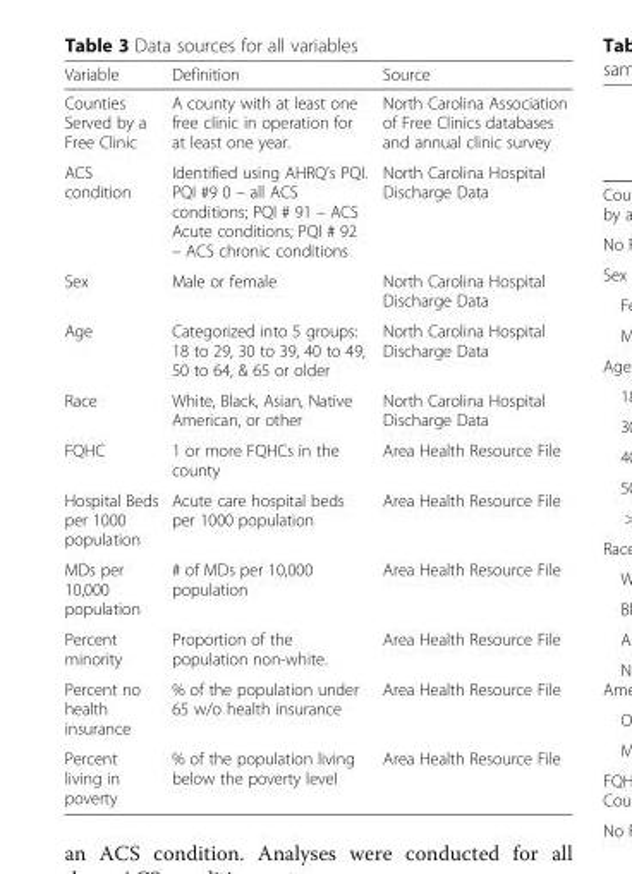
<table><thead><tr><td>Variable</td><td>Definition</td><td>Source</td></tr></thead><tbody><tr><td>Counties Served by a Free Clinic</td><td>A county with at least one free clinic in operation for at least one year.</td><td>North Carolina Association of Free Clinics databases and annual clinic survey</td></tr><tr><td>ACS condition</td><td>Identified using AHRQ’s PQI. PQI #9 0 – all ACS conditions; PQI # 91 – ACS Acute conditions; PQI # 92 – ACS chronic conditions</td><td>North Carolina Hospital Discharge Data</td></tr><tr><td>Sex</td><td>Male or female</td><td>North Carolina Hospital Discharge Data</td></tr><tr><td>Age</td><td>Categorized into 5 groups: 18 to 29, 30 to 39, 40 to 49, 50 to 64, &amp; 65 or older</td><td>North Carolina Hospital Discharge Data</td></tr><tr><td>Race</td><td>White, Black, Asian, Native American, or other</td><td>North Carolina Hospital Discharge Data</td></tr><tr><td>FQHC</td><td>1 or more FQHCs in the county</td><td>Area Health Resource File</td></tr><tr><td>Hospital Beds per 1000 population</td><td>Acute care hospital beds per 1000 population</td><td>Area Health Resource File</td></tr><tr><td>MDs per 10,000 population</td><td># of MDs per 10,000 population</td><td>Area Health Resource File</td></tr><tr><td>Percent minority</td><td>Proportion of the population non-white.</td><td>Area Health Resource File</td></tr><tr><td>Percent no health insurance</td><td>% of the population under 65 w/o health insurance</td><td>Area Health Resource File</td></tr><tr><td>Percent living in poverty</td><td>% of the population living below the poverty level</td><td>Area Health Resource File</td></tr></tbody></table>